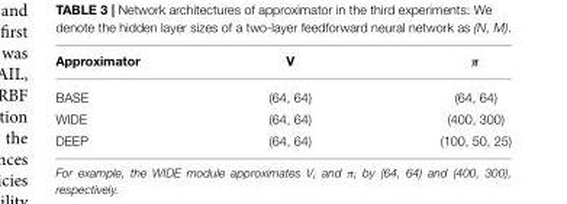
<table><thead><tr><td>Approximator</td><td>V</td><td>π</td></tr></thead><tbody><tr><td>BASE</td><td>(64, 64)</td><td>(64, 64)</td></tr><tr><td>WIDE</td><td>(64, 64)</td><td>(400, 300)</td></tr><tr><td>DEEP</td><td>(64, 64)</td><td>(100, 50, 25)</td></tr></tbody></table>